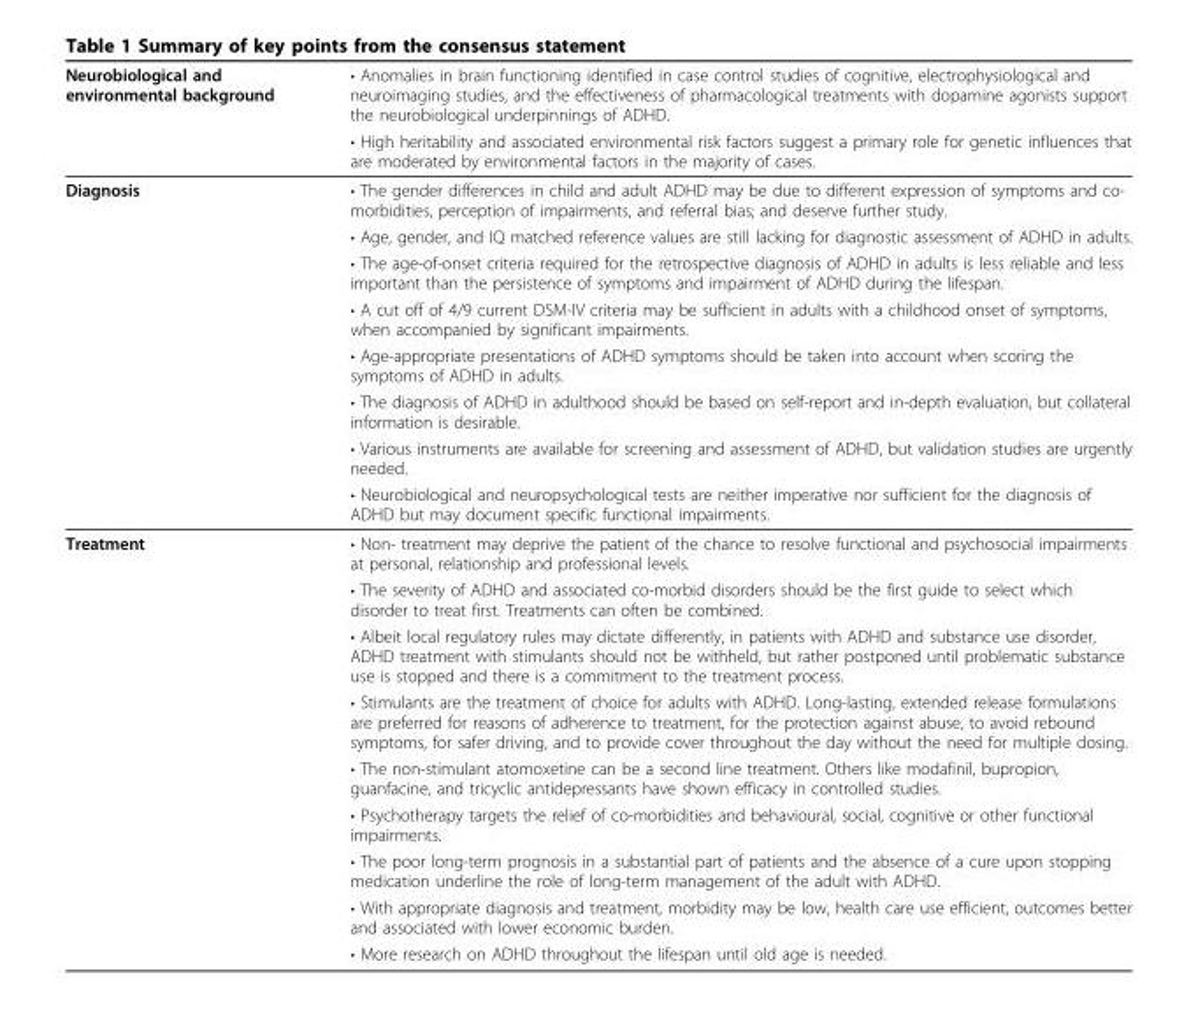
<table><thead><tr><td rowspan="2">Neurobiological and environmental background</td><td rowspan="2">• Anomalies in brain functioning identified in case control studies of cognitive, electrophysiological and neuroimaging studies, and the effectiveness of pharmacological treatments with dopamine agonists support the neurobiological underpinnings of ADHD. • High heritability and associated environmental risk factors suggest a primary role for genetic influences that are moderated by environmental factors in the majority of cases.</td></tr><tr></tr></thead><tbody><tr><td rowspan="8">Diagnosis</td><td>• The gender differences in child and adult ADHD may be due to different expression of symptoms and co- morbidities, perception of impairments, and referral bias; and deserve further study.</td></tr><tr><td>• Age, gender, and IQ matched reference values are still lacking for diagnostic assessment of ADHD in adults.</td></tr><tr><td>• The age-of-onset criteria required for the retrospective diagnosis of ADHD in adults is less reliable and less important than the persistence of symptoms and impairment of ADHD during the lifespan.</td></tr><tr><td>• A cut off of 4/9 current DSM-IV criteria may be sufficient in adults with a childhood onset of symptoms, when accompanied by significant impairments.</td></tr><tr><td>• Age-appropriate presentations of ADHD symptoms should be taken into account when scoring the symptoms of ADHD in adults.</td></tr><tr><td>• The diagnosis of ADHD in adulthood should be based on self-report and in-depth evaluation, but collateral information is desirable.</td></tr><tr><td>• Various instruments are available for screening and assessment of ADHD, but validation studies are urgently needed.</td></tr><tr><td>• Neurobiological and neuropsychological tests are neither imperative nor sufficient for the diagnosis of ADHD but may document specific functional impairments.</td></tr><tr><td rowspan="9">Treatment</td><td>• Non- treatment may deprive the patient of the chance to resolve functional and psychosocial impairments at personal, relationship and professional levels.</td></tr><tr><td>• The severity of ADHD and associated co-morbid disorders should be the first guide to select which disorder to treat first. Treatments can often be combined.</td></tr><tr><td>• Albeit local regulatory rules may dictate differently, in patients with ADHD and substance use disorder, ADHD treatment with stimulants should not be withheld, but rather postponed until problematic substance use is stopped and there is a commitment to the treatment process.</td></tr><tr><td>• Stimulants are the treatment of choice for adults with ADHD. Long-lasting, extended release formulations are preferred for reasons of adherence to treatment, for the protection against abuse, to avoid rebound symptoms, for safer driving, and to provide cover throughout the day without the need for multiple dosing.</td></tr><tr><td>• The non-stimulant atomoxetine can be a second line treatment. Others like modafinil, bupropion, guanfacine, and tricyclic antidepressants have shown efficacy in controlled studies.</td></tr><tr><td>• Psychotherapy targets the relief of co-morbidities and behavioural, social, cognitive or other functional impairments.</td></tr><tr><td>• The poor long-term prognosis in a substantial part of patients and the absence of a cure upon stopping medication underline the role of long-term management of the adult with ADHD.</td></tr><tr><td>• With appropriate diagnosis and treatment, morbidity may be low, health care use efficient, outcomes better and associated with lower economic burden.</td></tr><tr><td>• More research on ADHD throughout the lifespan until old age is needed.</td></tr></tbody></table>